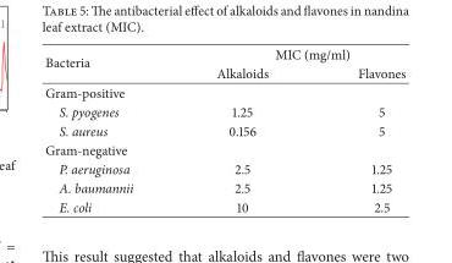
<table><thead><tr><td rowspan="2">Bacteria</td><td colspan="2">MIC (mg/ml)</td></tr><tr><td>Alkaloids</td><td>Flavones</td></tr></thead><tbody><tr><td colspan="3">Gram-positive</td></tr><tr><td>S. pyogenes</td><td>1.25</td><td>5</td></tr><tr><td>S. aureus</td><td>0.156</td><td>5</td></tr><tr><td colspan="3">Gram-negative</td></tr><tr><td>P. aeruginosa</td><td>2.5</td><td>1.25</td></tr><tr><td>A. baumannii</td><td>2.5</td><td>1.25</td></tr><tr><td>E. coli</td><td>10</td><td>2.5</td></tr></tbody></table>